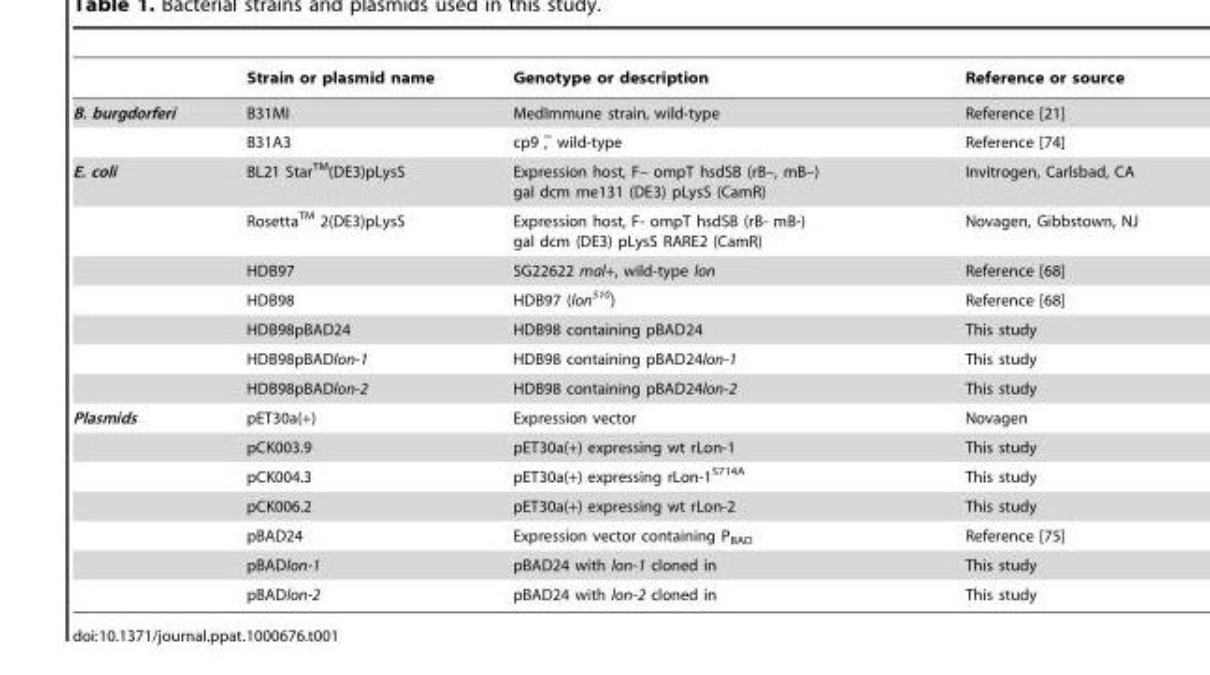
<table><thead><tr><td></td><td>Strain or plasmid name</td><td>Genotype or description</td><td>Reference or source</td></tr></thead><tbody><tr><td rowspan="2">B. burgdorferi</td><td>B31MI</td><td>MedImmune strain, wild-type</td><td>Reference [21]</td></tr><tr><td>B31A3</td><td>cp9 ,– wild-type</td><td>Reference [74]</td></tr><tr><td rowspan="7">E. coli</td><td>BL21 StarTM(DE3)pLysS</td><td>Expression host, F– ompT hsdSB (rB–, mB–) gal dcm rne131 (DE3) pLysS (CamR)</td><td>Invitrogen, Carlsbad, CA</td></tr><tr><td>RosettaTM 2(DE3)pLysS</td><td>Expression host, F- ompT hsdSB (rB- mB-) gal dcm (DE3) pLysS RARE2 (CamR)</td><td>Novagen, Gibbstown, NJ</td></tr><tr><td>HDB97</td><td>SG22622 mal+, wild-type lon</td><td>Reference [68]</td></tr><tr><td>HDB98</td><td>HDB97 (lon<sup>510</sup>)</td><td>Reference [68]</td></tr><tr><td>HDB98pBAD24</td><td>HDB98 containing pBAD24</td><td>This study</td></tr><tr><td>HDB98pBADlon-1</td><td>HDB98 containing pBAD24lon-1</td><td>This study</td></tr><tr><td>HDB98pBADlon-2</td><td>HDB98 containing pBAD24lon-2</td><td>This study</td></tr><tr><td rowspan="7">Plasmids</td><td>pET30a(+)</td><td>Expression vector</td><td>Novagen</td></tr><tr><td>pCK003.9</td><td>pET30a(+) expressing wt rLon-1</td><td>This study</td></tr><tr><td>pCK004.3</td><td>pET30a(+) expressing rLon-1<sup>S714A</sup></td><td>This study</td></tr><tr><td>pCK006.2</td><td>pET30a(+) expressing wt rLon-2</td><td>This study</td></tr><tr><td>pBAD24</td><td>Expression vector containing P<sub>BAD</sub></td><td>Reference [75]</td></tr><tr><td>pBADlon-1</td><td>pBAD24 with lon-1 cloned in</td><td>This study</td></tr><tr><td>pBADlon-2</td><td>pBAD24 with lon-2 cloned in</td><td>This study</td></tr></tbody></table>